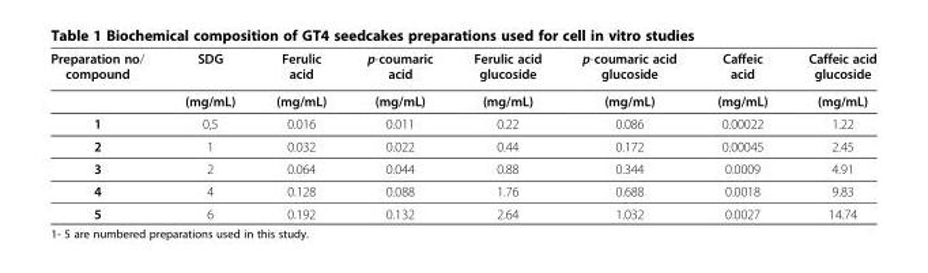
<table><thead><tr><td>Preparation no/ compound</td><td>SDG</td><td>Ferulic acid</td><td>p-coumaric acid</td><td>Ferulic acid glucoside</td><td>p-coumaric acid glucoside</td><td>Caffeic acid</td><td>Caffeic acid glucoside</td></tr></thead><tbody><tr><td></td><td>(mg/mL)</td><td>(mg/mL)</td><td>(mg/mL)</td><td>(mg/mL)</td><td>(mg/mL)</td><td>(mg/mL)</td><td>(mg/mL)</td></tr><tr><td>1</td><td>0,5</td><td>0.016</td><td>0.011</td><td>0.22</td><td>0.086</td><td>0.00022</td><td>1.22</td></tr><tr><td>2</td><td>1</td><td>0.032</td><td>0.022</td><td>0.44</td><td>0.172</td><td>0.00045</td><td>2.45</td></tr><tr><td>3</td><td>2</td><td>0.064</td><td>0.044</td><td>0.88</td><td>0.344</td><td>0.0009</td><td>4.91</td></tr><tr><td>4</td><td>4</td><td>0.128</td><td>0.088</td><td>1.76</td><td>0.688</td><td>0.0018</td><td>9.83</td></tr><tr><td>5</td><td>6</td><td>0.192</td><td>0.132</td><td>2.64</td><td>1.032</td><td>0.0027</td><td>14.74</td></tr></tbody></table>